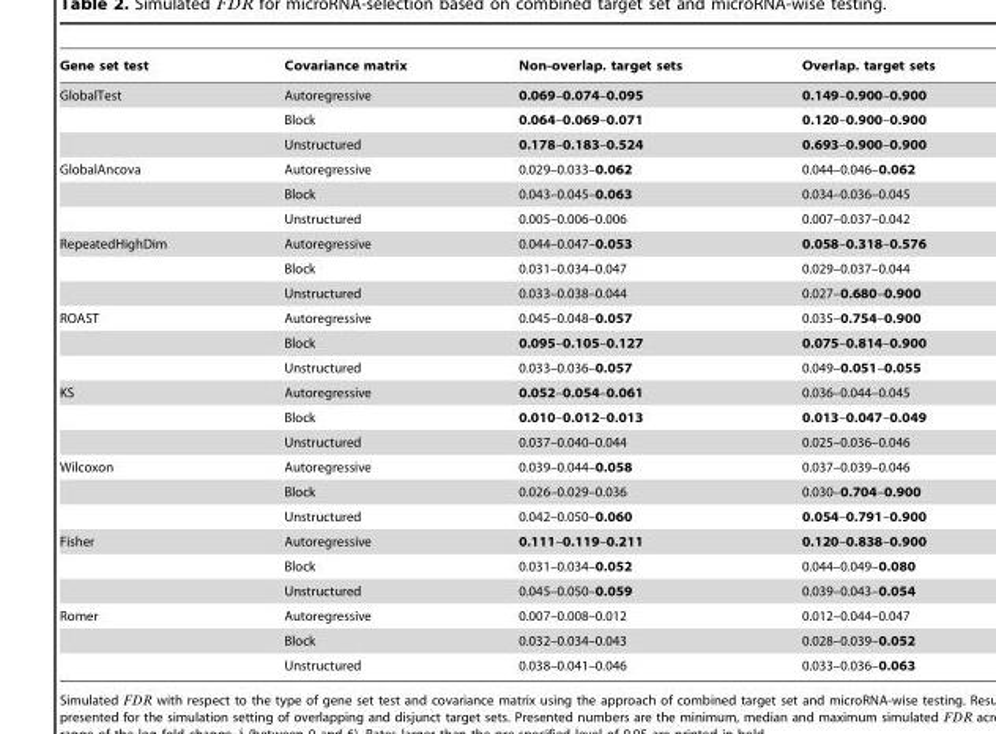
<table><thead><tr><td>Gene set test</td><td>Covariance matrix</td><td>Non-overlap. target sets</td><td>Overlap. target sets</td></tr></thead><tbody><tr><td rowspan="3">GlobalTest</td><td>Autoregressive</td><td>0.069–0.074–0.095</td><td>0.149–0.900–0.900</td></tr><tr><td>Block</td><td>0.064–0.069–0.071</td><td>0.120–0.900–0.900</td></tr><tr><td>Unstructured</td><td>0.178–0.183–0.524</td><td>0.693–0.900–0.900</td></tr><tr><td rowspan="3">GlobalAncova</td><td>Autoregressive</td><td>0.029–0.033–0.062</td><td>0.044–0.046–0.062</td></tr><tr><td>Block</td><td>0.043–0.045–0.063</td><td>0.034–0.036–0.045</td></tr><tr><td>Unstructured</td><td>0.005–0.006–0.006</td><td>0.007–0.037–0.042</td></tr><tr><td rowspan="3">RepeatedHighDim</td><td>Autoregressive</td><td>0.044–0.047–0.053</td><td>0.058–0.318–0.576</td></tr><tr><td>Block</td><td>0.031–0.034–0.047</td><td>0.029–0.037–0.044</td></tr><tr><td>Unstructured</td><td>0.033–0.038–0.044</td><td>0.027–0.680–0.900</td></tr><tr><td rowspan="3">ROAST</td><td>Autoregressive</td><td>0.045–0.048–0.057</td><td>0.035–0.754–0.900</td></tr><tr><td>Block</td><td>0.095–0.105–0.127</td><td>0.075–0.814–0.900</td></tr><tr><td>Unstructured</td><td>0.033–0.036–0.057</td><td>0.049–0.051–0.055</td></tr><tr><td rowspan="3">KS</td><td>Autoregressive</td><td>0.052–0.054–0.061</td><td>0.036–0.044–0.045</td></tr><tr><td>Block</td><td>0.010–0.012–0.013</td><td>0.013–0.047–0.049</td></tr><tr><td>Unstructured</td><td>0.037–0.040–0.044</td><td>0.025–0.036–0.046</td></tr><tr><td rowspan="3">Wilcoxon</td><td>Autoregressive</td><td>0.039–0.044–0.058</td><td>0.037–0.039–0.046</td></tr><tr><td>Block</td><td>0.026–0.029–0.036</td><td>0.030–0.704–0.900</td></tr><tr><td>Unstructured</td><td>0.042–0.050–0.060</td><td>0.054–0.791–0.900</td></tr><tr><td rowspan="3">Fisher</td><td>Autoregressive</td><td>0.111–0.119–0.211</td><td>0.120–0.838–0.900</td></tr><tr><td>Block</td><td>0.031–0.034–0.052</td><td>0.044–0.049–0.080</td></tr><tr><td>Unstructured</td><td>0.045–0.050–0.059</td><td>0.039–0.043–0.054</td></tr><tr><td rowspan="3">Romer</td><td>Autoregressive</td><td>0.007–0.008–0.012</td><td>0.012–0.044–0.047</td></tr><tr><td>Block</td><td>0.032–0.034–0.043</td><td>0.028–0.039–0.052</td></tr><tr><td>Unstructured</td><td>0.038–0.041–0.046</td><td>0.033–0.036–0.063</td></tr></tbody></table>